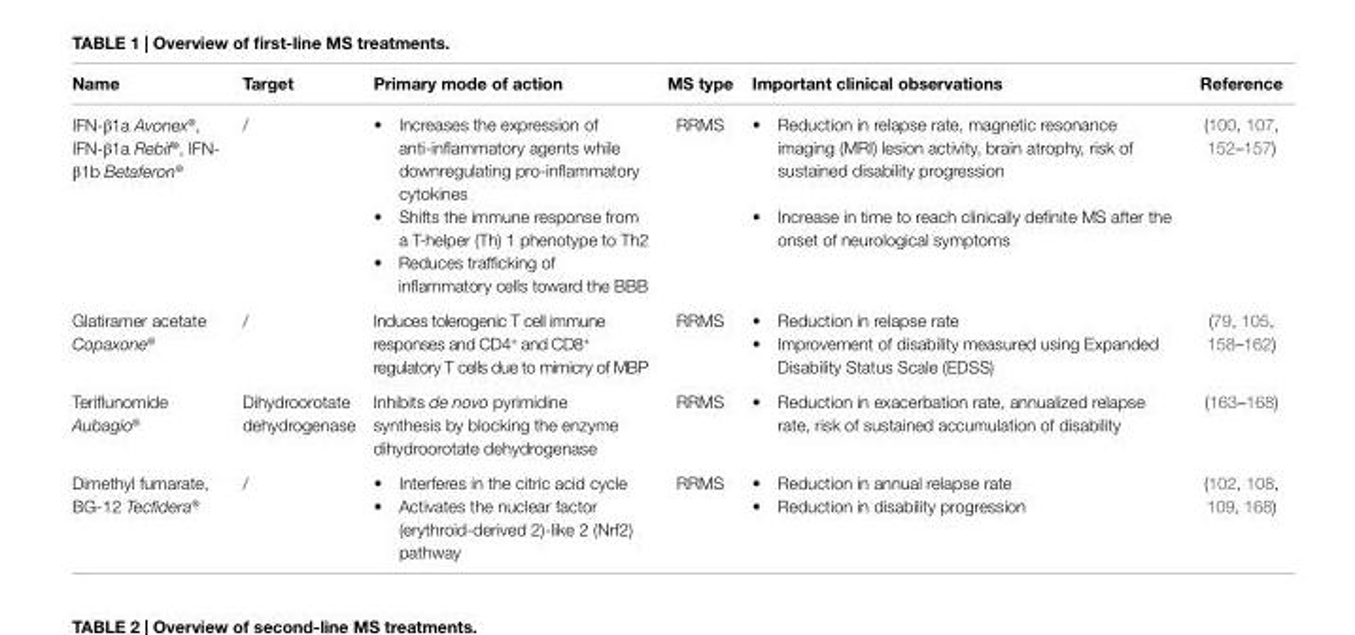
<table><thead><tr><td>Name</td><td>Target</td><td>Primary mode of action</td><td>MS type</td><td>important clinical observations</td><td>Reference</td></tr></thead><tbody><tr><td rowspan="3">IFN-β1a Avonex<sup>®</sup>, IFN-β1a Rebif<sup>®</sup>, IFN- β1b Betaferon<sup>®</sup></td><td rowspan="3">/</td><td>• Increases the expression of anti-inflammatory agents while downregulating pro-inflammatory cytokines</td><td rowspan="3">RRMS</td><td>• Reduction in relapse rate, magnetic resonance imaging (MRI) lesion activity, brain atrophy, risk of sustained disability progression</td><td rowspan="3">(100, 107, 152–157)</td></tr><tr><td>• Shifts the immune response from a T-helper (Th) 1 phenotype to Th2</td><td rowspan="2">• Increase in time to reach clinically definite MS after the onset of neurological symptoms</td></tr><tr><td>• Reduces trafficking of inflammatory cells toward the BBB</td></tr><tr><td rowspan="2">Glatiramer acetate Copaxone<sup>®</sup></td><td rowspan="2">/</td><td rowspan="2">Induces tolerogenic T cell immune responses and CD4<sup>+</sup> and CD8<sup>+</sup> regulatory T cells due to mimicry of MBP</td><td rowspan="2">RRMS</td><td>• Reduction in relapse rate</td><td rowspan="2">(79, 105, 158–162)</td></tr><tr><td>• Improvement of disability measured using Expanded Disability Status Scale (EDSS)</td></tr><tr><td>Teriflunomide Aubagio<sup>®</sup></td><td>Dihydroorotate dehydrogenase</td><td>Inhibits de novo pyrimidine synthesis by blocking the enzyme dihydroorotate dehydrogenase</td><td>RRMS</td><td>• Reduction in exacerbation rate, annualized relapse rate, risk of sustained accumulation of disability</td><td>(163–168)</td></tr><tr><td rowspan="2">Dimethyl fumarate, BG-12 Tecfidera<sup>®</sup></td><td rowspan="2">/</td><td>• Interferes in the citric acid cycle</td><td rowspan="2">RRMS</td><td>• Reduction in annual relapse rate</td><td rowspan="2">(102, 108, 109, 168)</td></tr><tr><td>• Activates the nuclear factor (erythroid-derived 2)-like 2 (Nrf2) pathway</td><td>• Reduction in disability progression</td></tr></tbody></table>